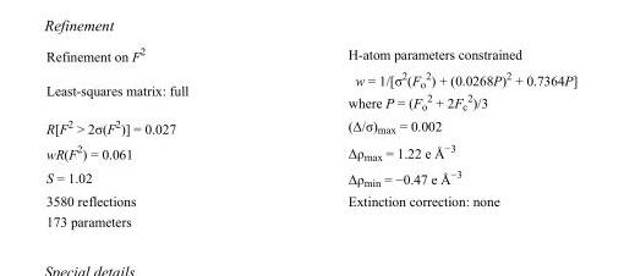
<table><tbody><tr><td>Refinement on F<sup>2</sup></td><td>H-atom parameters constrained</td></tr><tr><td>Least-squares matrix: full</td><td>w = 1/[σ<sup>2</sup>(F<sub>o</sub> <sup>2</sup>) + (0.0268P)<sup>2</sup> + 0.7364P] where P = (F<sub>o</sub> <sup>2</sup> + 2F<sub>c</sub> <sup>2</sup>)/3</td></tr><tr><td>R[F<sup>2</sup> &gt; 2σ(F<sup>2</sup>)] = 0.027</td><td>(Δ/σ)<sub>max</sub> = 0.002</td></tr><tr><td>wR(F<sup>2</sup>) = 0.061</td><td>Δρ<sub>max</sub> = 1.22 e Å<sup>−3</sup></td></tr><tr><td>S = 1.02</td><td>Δρ<sub>min</sub> = −0.47 e Å<sup>−3</sup></td></tr><tr><td>3580 reflections</td><td>Extinction correction: none</td></tr><tr><td>173 parameters</td><td></td></tr></tbody></table>